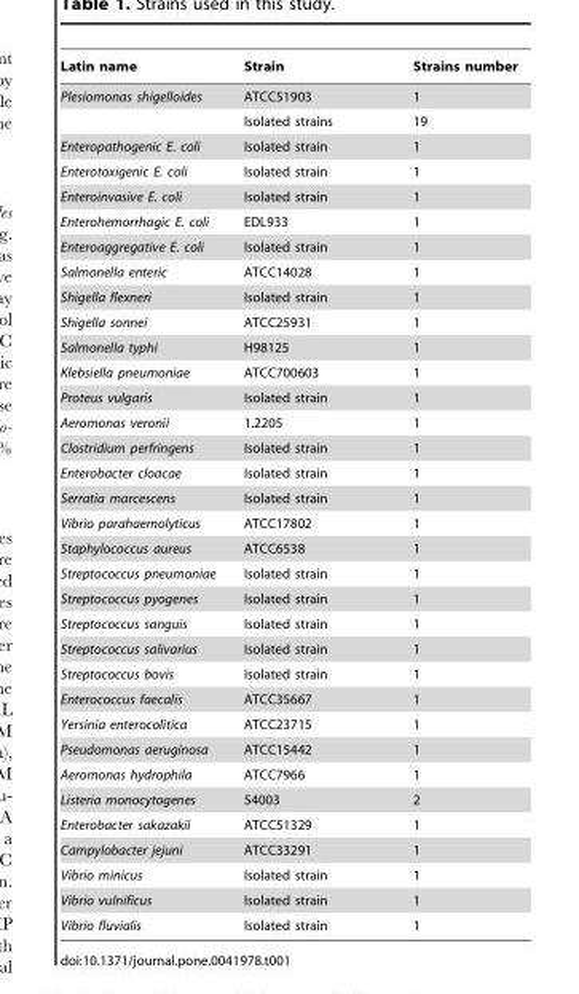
<table><thead><tr><td>Latin name</td><td>Strain</td><td>Strains number</td></tr></thead><tbody><tr><td rowspan="2">Plesiomonas shigelloides</td><td>ATCC51903</td><td>1</td></tr><tr><td>Isolated strains</td><td>19</td></tr><tr><td>Enteropathogenic E. coli</td><td>Isolated strain</td><td>1</td></tr><tr><td>Enterotoxigenic E. coli</td><td>Isolated strain</td><td>1</td></tr><tr><td>Enteroinvasive E. coli</td><td>Isolated strain</td><td>1</td></tr><tr><td>Enterohemorrhagic E. coli</td><td>EDL933</td><td>1</td></tr><tr><td>Enteroaggregative E. coli</td><td>Isolated strain</td><td>1</td></tr><tr><td>Salmonella enteric</td><td>ATCC14028</td><td>1</td></tr><tr><td>Shigella flexneri</td><td>Isolated strain</td><td>1</td></tr><tr><td>Shigella sonnei</td><td>ATCC25931</td><td>1</td></tr><tr><td>Salmonella typhi</td><td>H98125</td><td>1</td></tr><tr><td>Klebsiella pneumoniae</td><td>ATCC700603</td><td>1</td></tr><tr><td>Proteus vulgaris</td><td>Isolated strain</td><td>1</td></tr><tr><td>Aeromonas veronii</td><td>1.2205</td><td>1</td></tr><tr><td>Clostridium perfringens</td><td>Isolated strain</td><td>1</td></tr><tr><td>Enterobacter cloacae</td><td>Isolated strain</td><td>1</td></tr><tr><td>Serratia marcescens</td><td>Isolated strain</td><td>1</td></tr><tr><td>Vibrio parahaemolyticus</td><td>ATCC17802</td><td>1</td></tr><tr><td>Staphylococcus aureus</td><td>ATCC6538</td><td>1</td></tr><tr><td>Streptococcus pneumoniae</td><td>Isolated strain</td><td>1</td></tr><tr><td>Streptococcus pyogenes</td><td>Isolated strain</td><td>1</td></tr><tr><td>Streptococcus sanguis</td><td>Isolated strain</td><td>1</td></tr><tr><td>Streptococcus salivarius</td><td>Isolated strain</td><td>1</td></tr><tr><td>Streptococcus bovis</td><td>Isolated strain</td><td>1</td></tr><tr><td>Enterococcus faecalis</td><td>ATCC35667</td><td>1</td></tr><tr><td>Yersinia enterocolitica</td><td>ATCC23715</td><td>1</td></tr><tr><td>Pseudomonas aeruginosa</td><td>ATCC15442</td><td>1</td></tr><tr><td>Aeromonas hydrophila</td><td>ATCC7966</td><td>1</td></tr><tr><td>Listeria monocytogenes</td><td>54003</td><td>2</td></tr><tr><td>Enterobacter sakazakii</td><td>ATCC51329</td><td>1</td></tr><tr><td>Campylobacter jejuni</td><td>ATCC33291</td><td>1</td></tr><tr><td>Vibrio minicus</td><td>Isolated strain</td><td>1</td></tr><tr><td>Vibrio vulnificus</td><td>Isolated strain</td><td>1</td></tr><tr><td>Vibrio fluvialis</td><td>Isolated strain</td><td>1</td></tr></tbody></table>